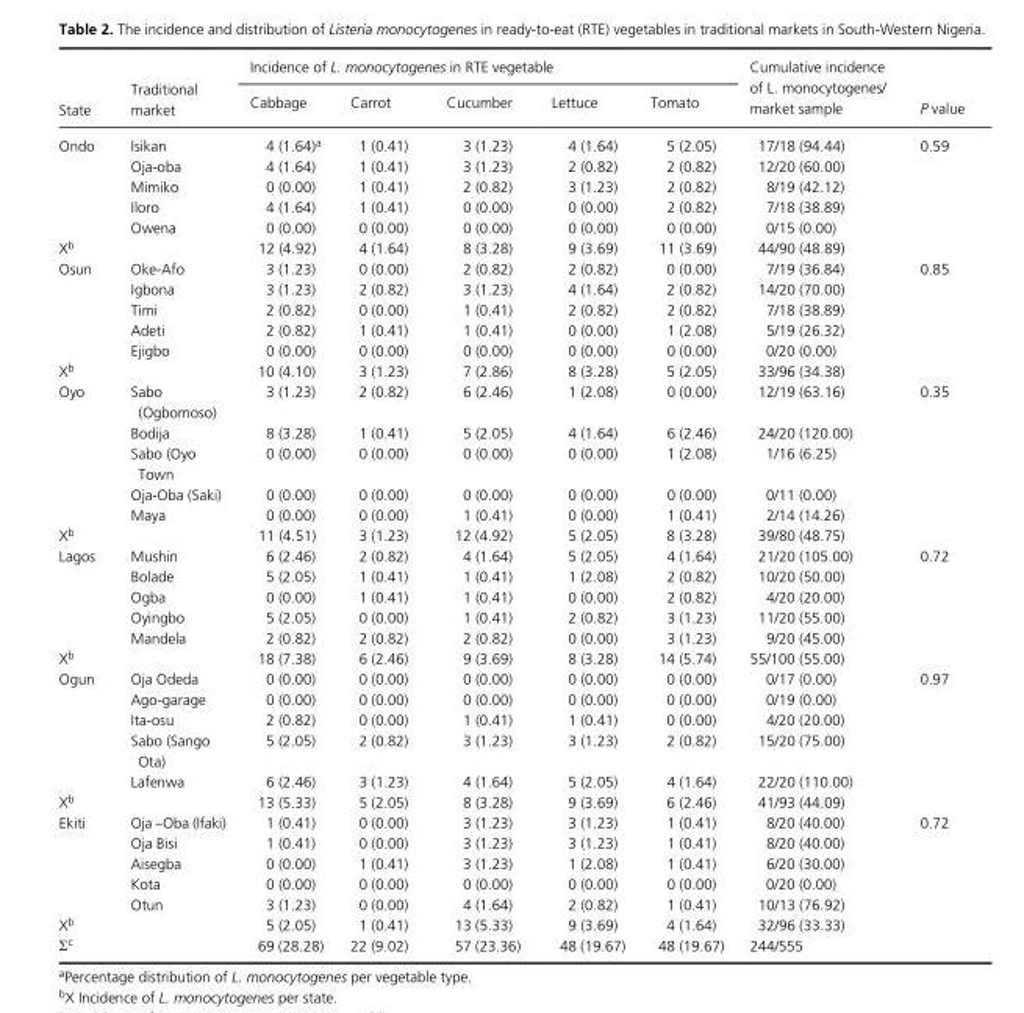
<table><thead><tr><td rowspan="2">State</td><td rowspan="2">Traditional market</td><td colspan="5">Incidence of L. monocytogenes in RTE vegetable</td><td rowspan="2">Cumulative incidence of L. monocytogenes / market sample</td><td rowspan="2">P value</td></tr><tr><td>Cabbage</td><td>Carrot</td><td>Cucumber</td><td>Lettuce</td><td>Tomato</td></tr></thead><tbody><tr><td rowspan="5">Ondo</td><td>Isikan</td><td>4 (1.64) <sup>a</sup></td><td>1 (0.41)</td><td>3 (1.23)</td><td>4 (1.64)</td><td>5 (2.05)</td><td>17/18 (94.44)</td><td>0.59</td></tr><tr><td>Oja- oba</td><td>4 (1.64)</td><td>1 (0.41)</td><td>3 (1.23)</td><td>2 (0.82)</td><td>2 (0.82)</td><td>12/20 (60.00)</td><td></td></tr><tr><td>Mimiko</td><td>0 (0.00)</td><td>1 (0.41)</td><td>2 (0.82)</td><td>3 (1.23)</td><td>2 (0.82)</td><td>8/19 (42.12)</td><td></td></tr><tr><td>Iloro</td><td>4 (1.64)</td><td>1 (0.41)</td><td>0 (0.00)</td><td>0 (0.00)</td><td>2 (0.82)</td><td>7/18 (38.89)</td><td></td></tr><tr><td>Owena</td><td>0 (0.00)</td><td>0 (0.00)</td><td>0 (0.00)</td><td>0 (0.00)</td><td>0 (0.00)</td><td>0/15 (0.00)</td><td></td></tr><tr><td>X <sup>b</sup></td><td></td><td>12 (4.92)</td><td>4 (1.64)</td><td>8 (3.28)</td><td>9 (3.69)</td><td>11 (3.69)</td><td>44/90 (48.89)</td><td></td></tr><tr><td rowspan="5">Osun</td><td>Oke- Afo</td><td>3 (1.23)</td><td>0 (0.00)</td><td>2 (0.82)</td><td>2 (0.82)</td><td>0 (0.00)</td><td>7/19 (36.84)</td><td>0.85</td></tr><tr><td>Igbona</td><td>3 (1.23)</td><td>2 (0.82)</td><td>3 (1.23)</td><td>4 (1.64)</td><td>2 (0.82)</td><td>14/20 (70.00)</td><td></td></tr><tr><td>Timi</td><td>2 (0.82)</td><td>0 (0.00)</td><td>1 (0.41)</td><td>2 (0.82)</td><td>2 (0.82)</td><td>7/18 (38.89)</td><td></td></tr><tr><td>Adeti</td><td>2 (0.82)</td><td>1 (0.41)</td><td>1 (0.41)</td><td>0 (0.00)</td><td>1 (2.08)</td><td>5/19 (26.32)</td><td></td></tr><tr><td>Ejigbo</td><td>0 (0.00)</td><td>0 (0.00)</td><td>0 (0.00)</td><td>0 (0.00)</td><td>0 (0.00)</td><td>0/20 (0.00)</td><td></td></tr><tr><td>X <sup>b</sup></td><td></td><td>10 (4.10)</td><td>3 (1.23)</td><td>7 (2.86)</td><td>8 (3.28)</td><td>5 (2.05)</td><td>33/96 (34.38)</td><td></td></tr><tr><td rowspan="5">Oyo</td><td>Sabo (Ogbomoso)</td><td>3 (1.23)</td><td>2 (0.82)</td><td>6 (2.46)</td><td>1 (2.08)</td><td>0 (0.00)</td><td>12/19 (63.16)</td><td>0.35</td></tr><tr><td>Bodija</td><td>8 (3.28)</td><td>1 (0.41)</td><td>5 (2.05)</td><td>4 (1.64)</td><td>6 (2.46)</td><td>24/20 (120.00)</td><td></td></tr><tr><td>Sabo (Oyo Town</td><td>0 (0.00)</td><td>0 (0.00)</td><td>0 (0.00)</td><td>0 (0.00)</td><td>1 (2.08)</td><td>1/16 (6.25)</td><td></td></tr><tr><td>Oja- Oba (Saki)</td><td>0 (0.00)</td><td>0 (0.00)</td><td>0 (0.00)</td><td>0 (0.00)</td><td>0 (0.00)</td><td>0/11 (0.00)</td><td></td></tr><tr><td>Maya</td><td>0 (0.00)</td><td>0 (0.00)</td><td>1 (0.41)</td><td>0 (0.00)</td><td>1 (0.41)</td><td>2/14 (14.26)</td><td></td></tr><tr><td>X <sup>b</sup></td><td></td><td>11 (4.51)</td><td>3 (1.23)</td><td>12 (4.92)</td><td>5 (2.05)</td><td>8 (3.28)</td><td>39/80 (48.75)</td><td></td></tr><tr><td rowspan="5">Lagos</td><td>Mushin</td><td>6 (2.46)</td><td>2 (0.82)</td><td>4 (1.64)</td><td>5 (2.05)</td><td>4 (1.64)</td><td>21/20 (105.00)</td><td>0.72</td></tr><tr><td>Bolade</td><td>5 (2.05)</td><td>1 (0.41)</td><td>1 (0.41)</td><td>1 (2.08)</td><td>2 (0.82)</td><td>10/20 (50.00)</td><td></td></tr><tr><td>Ogba</td><td>0 (0.00)</td><td>1 (0.41)</td><td>1 (0.41)</td><td>0 (0.00)</td><td>2 (0.82)</td><td>4/20 (20.00)</td><td></td></tr><tr><td>Oyingbo</td><td>5 (2.05)</td><td>0 (0.00)</td><td>1 (0.41)</td><td>2 (0.82)</td><td>3 (1.23)</td><td>11/20 (55.00)</td><td></td></tr><tr><td>Mandela</td><td>2 (0.82)</td><td>2 (0.82)</td><td>2 (0.82)</td><td>0 (0.00)</td><td>3 (1.23)</td><td>9/20 (45.00)</td><td></td></tr><tr><td>X <sup>b</sup></td><td></td><td>18 (7.38)</td><td>6 (2.46)</td><td>9 (3.69)</td><td>8 (3.28)</td><td>14 (5.74)</td><td>55/100 (55.00)</td><td></td></tr><tr><td rowspan="5">Ogun</td><td>Oja Odeda</td><td>0 (0.00)</td><td>0 (0.00)</td><td>0 (0.00)</td><td>0 (0.00)</td><td>0 (0.00)</td><td>0/17 (0.00)</td><td>0.97</td></tr><tr><td>Ago- garage</td><td>0 (0.00)</td><td>0 (0.00)</td><td>0 (0.00)</td><td>0 (0.00)</td><td>0 (0.00)</td><td>0/19 (0.00)</td><td></td></tr><tr><td>Ita- osu</td><td>2 (0.82)</td><td>0 (0.00)</td><td>1 (0.41)</td><td>1 (0.41)</td><td>0 (0.00)</td><td>4/20 (20.00)</td><td></td></tr><tr><td>Sabo (Sango Ota)</td><td>5 (2.05)</td><td>2 (0.82)</td><td>3 (1.23)</td><td>3 (1.23)</td><td>2 (0.82)</td><td>15/20 (75.00)</td><td></td></tr><tr><td>Lafenwa</td><td>6 (2.46)</td><td>3 (1.23)</td><td>4 (1.64)</td><td>5 (2.05)</td><td>4 (1.64)</td><td>22/20 (110.00)</td><td></td></tr><tr><td>X <sup>b</sup></td><td></td><td>13 (5.33)</td><td>5 (2.05)</td><td>8 (3.28)</td><td>9 (3.69)</td><td>6 (2.46)</td><td>41/93 (44.09)</td><td></td></tr><tr><td rowspan="5">Ekiti</td><td>Oja –Oba (Ifaki)</td><td>1 (0.41)</td><td>0 (0.00)</td><td>3 (1.23)</td><td>3 (1.23)</td><td>1 (0.41)</td><td>8/20 (40.00)</td><td>0.72</td></tr><tr><td>Oja Bisi</td><td>1 (0.41)</td><td>0 (0.00)</td><td>3 (1.23)</td><td>3 (1.23)</td><td>1 (0.41)</td><td>8/20 (40.00)</td><td></td></tr><tr><td>Aisegba</td><td>0 (0.00)</td><td>1 (0.41)</td><td>3 (1.23)</td><td>1 (2.08)</td><td>1 (0.41)</td><td>6/20 (30.00)</td><td></td></tr><tr><td>Kota</td><td>0 (0.00)</td><td>0 (0.00)</td><td>0 (0.00)</td><td>0 (0.00)</td><td>0 (0.00)</td><td>0/20 (0.00)</td><td></td></tr><tr><td>Otun</td><td>3 (1.23)</td><td>0 (0.00)</td><td>4 (1.64)</td><td>2 (0.82)</td><td>1 (0.41)</td><td>10/13 (76.92)</td><td></td></tr><tr><td>X <sup>b</sup></td><td></td><td>5 (2.05)</td><td>1 (0.41)</td><td>13 (5.33)</td><td>9 (3.69)</td><td>4 (1.64)</td><td>32/96 (33.33)</td><td></td></tr><tr><td>Σ <sup>c</sup></td><td></td><td>69 (28.28)</td><td>22 (9.02)</td><td>57 (23.36)</td><td>48 (19.67)</td><td>48 (19.67)</td><td>244/555</td><td></td></tr></tbody></table>